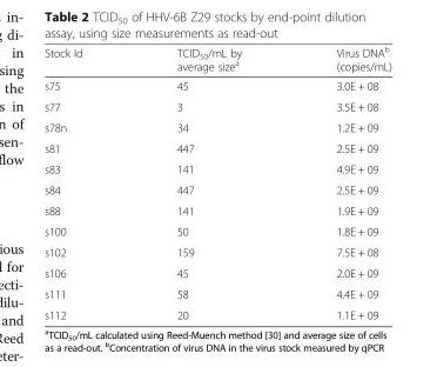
<table><thead><tr><td>Stock Id</td><td>TCID<sub>50</sub>/mL by average size<sup>a</sup></td><td>Virus DNA<sup>b</sup> (copies/mL)</td></tr></thead><tbody><tr><td>s75</td><td>45</td><td>3.0E + 08</td></tr><tr><td>s77</td><td>3</td><td>3.5E + 08</td></tr><tr><td>s78n</td><td>34</td><td>1.2E + 09</td></tr><tr><td>s81</td><td>447</td><td>2.5E + 09</td></tr><tr><td>s83</td><td>141</td><td>4.9E + 09</td></tr><tr><td>s84</td><td>447</td><td>2.5E + 09</td></tr><tr><td>s88</td><td>141</td><td>1.9E + 09</td></tr><tr><td>s100</td><td>50</td><td>1.8E + 09</td></tr><tr><td>s102</td><td>159</td><td>7.5E + 08</td></tr><tr><td>s106</td><td>45</td><td>2.0E + 09</td></tr><tr><td>s111</td><td>58</td><td>4.4E + 09</td></tr><tr><td>s112</td><td>20</td><td>1.1E + 09</td></tr></tbody></table>